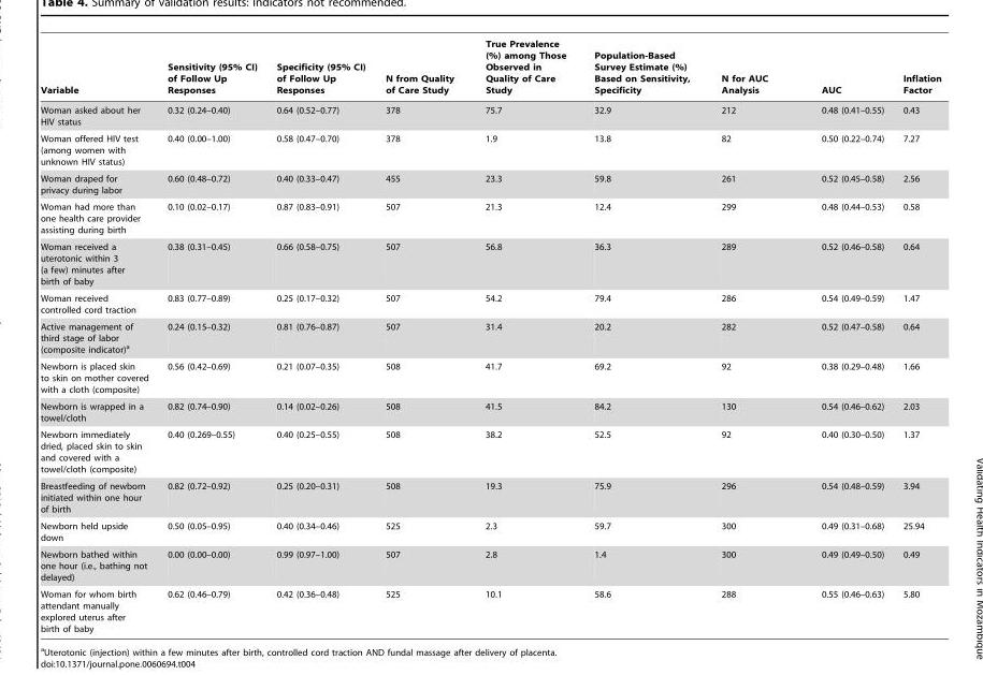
<table><thead><tr><td>Variable</td><td>Sensitivity (95% CI) of Follow Up Responses</td><td>Specificity (95% CI) of Follow Up Responses</td><td>N from Quality of Care Study</td><td>True Prevalence (%) among Those Observed in Quality of Care Study</td><td>Population-Based Survey Estimate (%) Based on Sensitivity, Specificity</td><td>N for AUC Analysis</td><td>AUC</td><td>Inflation Factor</td></tr></thead><tbody><tr><td>Woman asked about her HIV status</td><td>0.32 (0.24–0.40)</td><td>0.64 (0.52–0.77)</td><td>378</td><td>75.7</td><td>32.9</td><td>212</td><td>0.48 (0.41–0.55)</td><td>0.43</td></tr><tr><td>Woman offered HIV test (among women with unknown HIV status)</td><td>0.40 (0.00–1.00)</td><td>0.58 (0.47–0.70)</td><td>378</td><td>1.9</td><td>13.8</td><td>82</td><td>0.50 (0.22–0.74)</td><td>7.27</td></tr><tr><td>Woman draped for privacy during labor</td><td>0.60 (0.48–0.72)</td><td>0.40 (0.33–0.47)</td><td>455</td><td>23.3</td><td>59.8</td><td>261</td><td>0.52 (0.45–0.58)</td><td>2.56</td></tr><tr><td>Woman had more than one health care provider assisting during birth</td><td>0.10 (0.02–0.17)</td><td>0.87 (0.83–0.91)</td><td>507</td><td>21.3</td><td>12.4</td><td>299</td><td>0.48 (0.44–0.53)</td><td>0.58</td></tr><tr><td>Woman received a uterotonic within 3 (a few) minutes after birth of baby</td><td>0.38 (0.31–0.45)</td><td>0.66 (0.58–0.75)</td><td>507</td><td>56.8</td><td>36.3</td><td>289</td><td>0.52 (0.46–0.58)</td><td>0.64</td></tr><tr><td>Woman received controlled cord traction</td><td>0.83 (0.77–0.89)</td><td>0.25 (0.17–0.32)</td><td>507</td><td>54.2</td><td>79.4</td><td>286</td><td>0.54 (0.49–0.59)</td><td>1.47</td></tr><tr><td>Active management of third stage of labor (composite indicator)<sup>a</sup></td><td>0.24 (0.15–0.32)</td><td>0.81 (0.76–0.87)</td><td>507</td><td>31.4</td><td>20.2</td><td>282</td><td>0.52 (0.47–0.58)</td><td>0.64</td></tr><tr><td>Newborn is placed skin to skin on mother covered with a cloth (composite)</td><td>0.56 (0.42–0.69)</td><td>0.21 (0.07–0.35)</td><td>508</td><td>41.7</td><td>69.2</td><td>92</td><td>0.38 (0.29–0.48)</td><td>1.66</td></tr><tr><td>Newborn is wrapped in a towel/cloth</td><td>0.82 (0.74–0.90)</td><td>0.14 (0.02–0.26)</td><td>508</td><td>41.5</td><td>84.2</td><td>130</td><td>0.54 (0.46–0.62)</td><td>2.03</td></tr><tr><td>Newborn immediately dried, placed skin to skin and covered with a towel/cloth (composite)</td><td>0.40 (0.269–0.55)</td><td>0.40 (0.25–0.55)</td><td>508</td><td>38.2</td><td>52.5</td><td>92</td><td>0.40 (0.30–0.50)</td><td>1.37</td></tr><tr><td>Breastfeeding of newborn initiated within one hour of birth</td><td>0.82 (0.72–0.92)</td><td>0.25 (0.20–0.31)</td><td>508</td><td>19.3</td><td>75.9</td><td>296</td><td>0.54 (0.48–0.59)</td><td>3.94</td></tr><tr><td>Newborn held upside down</td><td>0.50 (0.05–0.95)</td><td>0.40 (0.34–0.46)</td><td>525</td><td>2.3</td><td>59.7</td><td>300</td><td>0.49 (0.31–0.68)</td><td>25.94</td></tr><tr><td>Newborn bathed within one hour (i.e., bathing not delayed)</td><td>0.00 (0.00–0.00)</td><td>0.99 (0.97–1.00)</td><td>507</td><td>2.8</td><td>1.4</td><td>300</td><td>0.49 (0.49–0.50)</td><td>0.49</td></tr><tr><td>Woman for whom birth attendant manually explored uterus after birth of baby</td><td>0.62 (0.46–0.79)</td><td>0.42 (0.36–0.48)</td><td>525</td><td>10.1</td><td>58.6</td><td>288</td><td>0.55 (0.46–0.63)</td><td>5.80</td></tr></tbody></table>